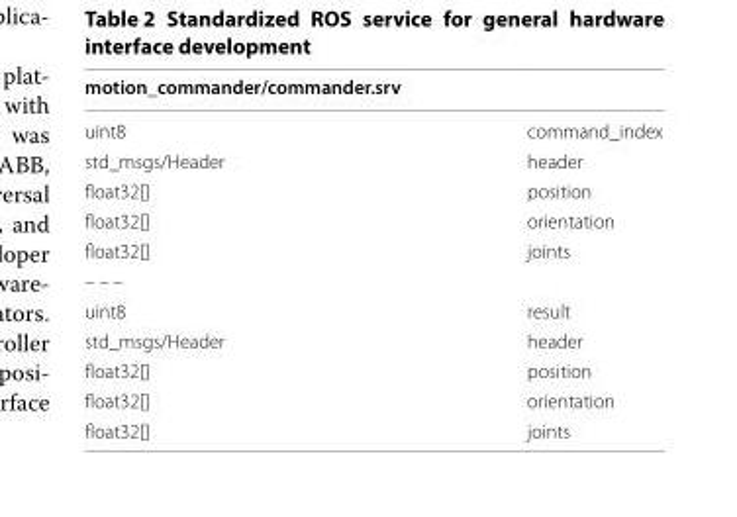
<table><thead><tr><td colspan="2">motion_commander/commander.srv</td></tr><tr><td>uint8</td><td>command_index</td></tr></thead><tbody><tr><td>std_msgs/Header</td><td>header</td></tr><tr><td>float32[]</td><td>position</td></tr><tr><td>float32[]</td><td>orientation</td></tr><tr><td>float32[]</td><td>joints</td></tr><tr><td colspan="2">– – –</td></tr><tr><td>uint8</td><td>result</td></tr><tr><td>std_msgs/Header</td><td>header</td></tr><tr><td>float32[]</td><td>position</td></tr><tr><td>float32[]</td><td>orientation</td></tr><tr><td>float32[]</td><td>joints</td></tr></tbody></table>